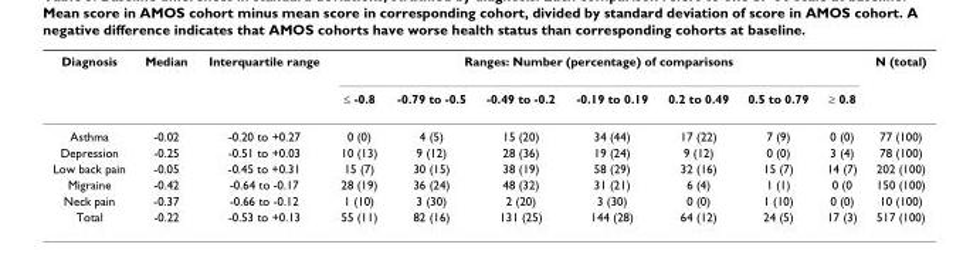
<table><thead><tr><td rowspan="2">Diagnosis</td><td rowspan="2">Median</td><td rowspan="2">Interquartile range</td><td colspan="7">Ranges: Number (percentage) of comparisons</td><td rowspan="2">N (total)</td></tr><tr><td>≤ -0.8</td><td>-0.79 to -0.5</td><td>-0.49 to -0.2</td><td>-0.19 to 0.19</td><td>0.2 to 0.49</td><td>0.5 to 0.79</td><td>≥ 0.8</td></tr></thead><tbody><tr><td>Asthma</td><td>-0.02</td><td>-0.20 to +0.27</td><td>0 (0)</td><td>4 (5)</td><td>15 (20)</td><td>34 (44)</td><td>17 (22)</td><td>7 (9)</td><td>0 (0)</td><td>77 (100)</td></tr><tr><td>Depression</td><td>-0.25</td><td>-0.51 to +0.03</td><td>10 (13)</td><td>9 (12)</td><td>28 (36)</td><td>19 (24)</td><td>9 (12)</td><td>0 (0)</td><td>3 (4)</td><td>78 (100)</td></tr><tr><td>Low back pain</td><td>-0.05</td><td>-0.45 to +0.31</td><td>15 (7)</td><td>30 (15)</td><td>38 (19)</td><td>58 (29)</td><td>32 (16)</td><td>15 (7)</td><td>14 (7)</td><td>202 (100)</td></tr><tr><td>Migraine</td><td>-0.42</td><td>-0.64 to -0.17</td><td>28 (19)</td><td>36 (24)</td><td>48 (32)</td><td>31 (21)</td><td>6 (4)</td><td>1 (1)</td><td>0 (0</td><td>150 (100)</td></tr><tr><td>Neck pain</td><td>-0.37</td><td>-0.66 to -0.12</td><td>1 (10)</td><td>3 (30)</td><td>2 (20)</td><td>3 (30)</td><td>0 (0)</td><td>1 (10)</td><td>0 (0)</td><td>10 (100)</td></tr><tr><td>Total</td><td>-0.22</td><td>-0.53 to +0.13</td><td>55 (11)</td><td>82 (16)</td><td>131 (25)</td><td>144 (28)</td><td>64 (12)</td><td>24 (5)</td><td>17 (3)</td><td>517 (100)</td></tr></tbody></table>